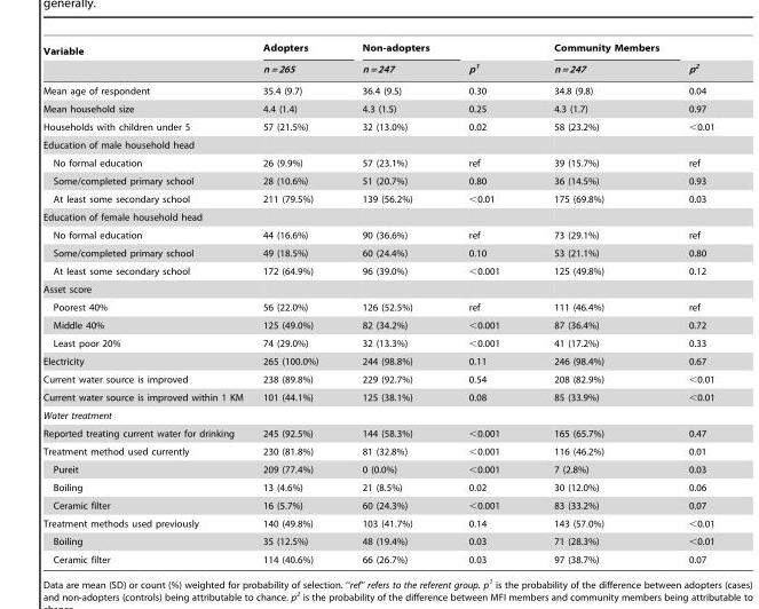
<table><thead><tr><td rowspan="2">Variable</td><td rowspan="2">Adopters n = 265</td><td rowspan="2">Non-adopters n = 247</td><td rowspan="2">p<sup>1</sup></td><td rowspan="2">Community Members n = 247</td><td rowspan="2">p<sup>2</sup></td></tr><tr></tr></thead><tbody><tr><td>Mean age of respondent</td><td>35.4 (9.7)</td><td>36.4 (9.5)</td><td>0.30</td><td>34.8 (9.8)</td><td>0.04</td></tr><tr><td>Mean household size</td><td>4.4 (1.4)</td><td>4.3 (1.5)</td><td>0.25</td><td>4.3 (1.7)</td><td>0.97</td></tr><tr><td>Households with children under 5</td><td>57 (21.5%)</td><td>32 (13.0%)</td><td>0.02</td><td>58 (23.2%)</td><td>&lt;0.01</td></tr><tr><td colspan="6">Education of male household head</td></tr><tr><td>No formal education</td><td>26 (9.9%)</td><td>57 (23.1%)</td><td>ref</td><td>39 (15.7%)</td><td>ref</td></tr><tr><td>Some/completed primary school</td><td>28 (10.6%)</td><td>51 (20.7%)</td><td>0.80</td><td>36 (14.5%)</td><td>0.93</td></tr><tr><td>At least some secondary school</td><td>211 (79.5%)</td><td>139 (56.2%)</td><td>&lt;0.01</td><td>175 (69.8%)</td><td>0.03</td></tr><tr><td colspan="6">Education of female household head</td></tr><tr><td>No formal education</td><td>44 (16.6%)</td><td>90 (36.6%)</td><td>ref</td><td>73 (29.1%)</td><td>ref</td></tr><tr><td>Some/completed primary school</td><td>49 (18.5%)</td><td>60 (24.4%)</td><td>0.10</td><td>53 (21.1%)</td><td>0.80</td></tr><tr><td>At least some secondary school</td><td>172 (64.9%)</td><td>96 (39.0%)</td><td>&lt;0.001</td><td>125 (49.8%)</td><td>0.12</td></tr><tr><td colspan="6">Asset score</td></tr><tr><td>Poorest 40%</td><td>56 (22.0%)</td><td>126 (52.5%)</td><td>ref</td><td>111 (46.4%)</td><td>ref</td></tr><tr><td>Middle 40%</td><td>125 (49.0%)</td><td>82 (34.2%)</td><td>&lt;0.001</td><td>87 (36.4%)</td><td>0.72</td></tr><tr><td>Least poor 20%</td><td>74 (29.0%)</td><td>32 (13.3%)</td><td>&lt;0.001</td><td>41 (17.2%)</td><td>0.33</td></tr><tr><td>Electricity</td><td>265 (100.0%)</td><td>244 (98.8%)</td><td>0.11</td><td>246 (98.4%)</td><td>0.67</td></tr><tr><td>Current water source is improved</td><td>238 (89.8%)</td><td>229 (92.7%)</td><td>0.54</td><td>208 (82.9%)</td><td>&lt;0.01</td></tr><tr><td>Current water source is improved within 1 KM</td><td>101 (44.1%)</td><td>125 (38.1%)</td><td>0.08</td><td>85 (33.9%)</td><td>&lt;0.01</td></tr><tr><td colspan="6">Water treatment</td></tr><tr><td>Reported treating current water for drinking</td><td>245 (92.5%)</td><td>144 (58.3%)</td><td>&lt;0.001</td><td>165 (65.7%)</td><td>0.47</td></tr><tr><td>Treatment method used currently</td><td>230 (81.8%)</td><td>81 (32.8%)</td><td>&lt;0.001</td><td>116 (46.2%)</td><td>0.01</td></tr><tr><td>Pureit</td><td>209 (77.4%)</td><td>0 (0.0%)</td><td>&lt;0.001</td><td>7 (2.8%)</td><td>0.03</td></tr><tr><td>Boiling</td><td>13 (4.6%)</td><td>21 (8.5%)</td><td>0.02</td><td>30 (12.0%)</td><td>0.06</td></tr><tr><td>Ceramic filter</td><td>16 (5.7%)</td><td>60 (24.3%)</td><td>&lt;0.001</td><td>83 (33.2%)</td><td>0.07</td></tr><tr><td>Treatment methods used previously</td><td>140 (49.8%)</td><td>103 (41.7%)</td><td>0.14</td><td>143 (57.0%)</td><td>&lt;0.01</td></tr><tr><td>Boiling</td><td>35 (12.5%)</td><td>48 (19.4%)</td><td>0.03</td><td>71 (28.3%)</td><td>&lt;0.01</td></tr><tr><td>Ceramic filter</td><td>114 (40.6%)</td><td>66 (26.7%)</td><td>0.03</td><td>97 (38.7%)</td><td>0.07</td></tr></tbody></table>